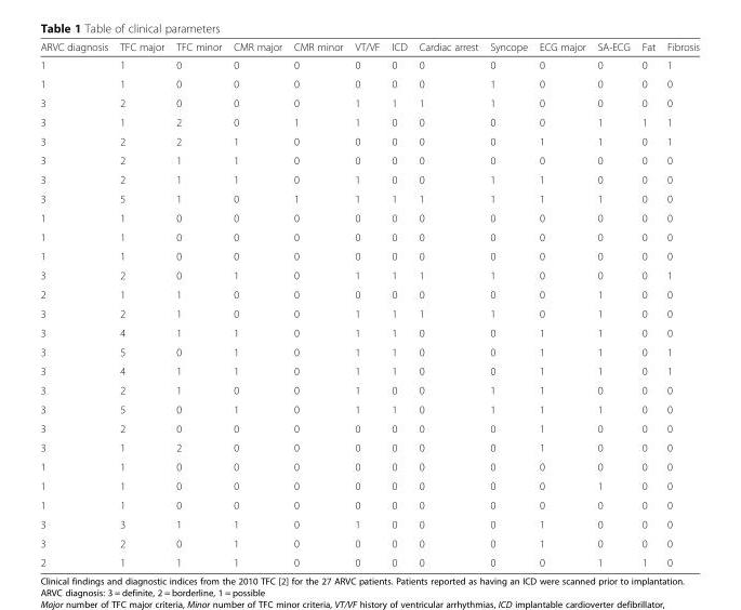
<table><thead><tr><td>ARVC diagnosis</td><td>TFC major</td><td>TFC minor</td><td>CMR major</td><td>CMR minor</td><td>VT/VF</td><td>ICD</td><td>Cardiac arrest</td><td>Syncope</td><td>ECG major</td><td>SA-ECG</td><td>Fat</td><td>Fibrosis</td></tr></thead><tbody><tr><td>1</td><td>1</td><td>0</td><td>0</td><td>0</td><td>0</td><td>0</td><td>0</td><td>0</td><td>0</td><td>0</td><td>0</td><td>1</td></tr><tr><td>1</td><td>1</td><td>0</td><td>0</td><td>0</td><td>0</td><td>0</td><td>0</td><td>1</td><td>0</td><td>0</td><td>0</td><td>0</td></tr><tr><td>3</td><td>2</td><td>0</td><td>0</td><td>0</td><td>1</td><td>1</td><td>1</td><td>1</td><td>0</td><td>0</td><td>0</td><td>0</td></tr><tr><td>3</td><td>1</td><td>2</td><td>0</td><td>1</td><td>1</td><td>0</td><td>0</td><td>0</td><td>0</td><td>1</td><td>1</td><td>1</td></tr><tr><td>3</td><td>2</td><td>2</td><td>1</td><td>0</td><td>0</td><td>0</td><td>0</td><td>0</td><td>1</td><td>1</td><td>0</td><td>1</td></tr><tr><td>3</td><td>2</td><td>1</td><td>1</td><td>0</td><td>0</td><td>0</td><td>0</td><td>0</td><td>0</td><td>0</td><td>0</td><td>0</td></tr><tr><td>3</td><td>2</td><td>1</td><td>1</td><td>0</td><td>1</td><td>0</td><td>0</td><td>1</td><td>1</td><td>0</td><td>0</td><td>0</td></tr><tr><td>3</td><td>5</td><td>1</td><td>0</td><td>1</td><td>1</td><td>1</td><td>1</td><td>1</td><td>1</td><td>1</td><td>0</td><td>0</td></tr><tr><td>1</td><td>1</td><td>0</td><td>0</td><td>0</td><td>0</td><td>0</td><td>0</td><td>0</td><td>0</td><td>0</td><td>0</td><td>0</td></tr><tr><td>1</td><td>1</td><td>0</td><td>0</td><td>0</td><td>0</td><td>0</td><td>0</td><td>0</td><td>0</td><td>0</td><td>0</td><td>0</td></tr><tr><td>1</td><td>1</td><td>0</td><td>0</td><td>0</td><td>0</td><td>0</td><td>0</td><td>0</td><td>0</td><td>0</td><td>0</td><td>0</td></tr><tr><td>3</td><td>2</td><td>0</td><td>1</td><td>0</td><td>1</td><td>1</td><td>1</td><td>1</td><td>0</td><td>0</td><td>0</td><td>1</td></tr><tr><td>2</td><td>1</td><td>1</td><td>0</td><td>0</td><td>0</td><td>0</td><td>0</td><td>0</td><td>0</td><td>1</td><td>0</td><td>0</td></tr><tr><td>3</td><td>2</td><td>1</td><td>0</td><td>0</td><td>1</td><td>1</td><td>1</td><td>1</td><td>0</td><td>1</td><td>0</td><td>0</td></tr><tr><td>3</td><td>4</td><td>1</td><td>1</td><td>0</td><td>1</td><td>1</td><td>0</td><td>0</td><td>1</td><td>1</td><td>0</td><td>0</td></tr><tr><td>3</td><td>5</td><td>0</td><td>1</td><td>0</td><td>1</td><td>1</td><td>0</td><td>0</td><td>1</td><td>1</td><td>0</td><td>1</td></tr><tr><td>3</td><td>4</td><td>1</td><td>1</td><td>0</td><td>1</td><td>1</td><td>0</td><td>0</td><td>1</td><td>1</td><td>0</td><td>1</td></tr><tr><td>3</td><td>2</td><td>1</td><td>0</td><td>0</td><td>1</td><td>0</td><td>0</td><td>1</td><td>1</td><td>0</td><td>0</td><td>0</td></tr><tr><td>3</td><td>5</td><td>0</td><td>1</td><td>0</td><td>1</td><td>1</td><td>0</td><td>1</td><td>1</td><td>1</td><td>0</td><td>0</td></tr><tr><td>3</td><td>2</td><td>0</td><td>0</td><td>0</td><td>0</td><td>0</td><td>0</td><td>0</td><td>1</td><td>0</td><td>0</td><td>0</td></tr><tr><td>3</td><td>1</td><td>2</td><td>0</td><td>0</td><td>0</td><td>0</td><td>0</td><td>0</td><td>1</td><td>0</td><td>0</td><td>0</td></tr><tr><td>1</td><td>1</td><td>0</td><td>0</td><td>0</td><td>0</td><td>0</td><td>0</td><td>0</td><td>0</td><td>0</td><td>0</td><td>0</td></tr><tr><td>1</td><td>1</td><td>0</td><td>0</td><td>0</td><td>0</td><td>0</td><td>0</td><td>0</td><td>0</td><td>1</td><td>0</td><td>0</td></tr><tr><td>1</td><td>1</td><td>0</td><td>0</td><td>0</td><td>0</td><td>0</td><td>0</td><td>0</td><td>0</td><td>0</td><td>0</td><td>0</td></tr><tr><td>3</td><td>3</td><td>1</td><td>1</td><td>0</td><td>1</td><td>0</td><td>0</td><td>0</td><td>1</td><td>0</td><td>0</td><td>0</td></tr><tr><td>3</td><td>2</td><td>0</td><td>1</td><td>0</td><td>0</td><td>0</td><td>0</td><td>0</td><td>1</td><td>0</td><td>0</td><td>0</td></tr><tr><td>2</td><td>1</td><td>1</td><td>1</td><td>0</td><td>0</td><td>0</td><td>0</td><td>0</td><td>0</td><td>1</td><td>1</td><td>0</td></tr></tbody></table>